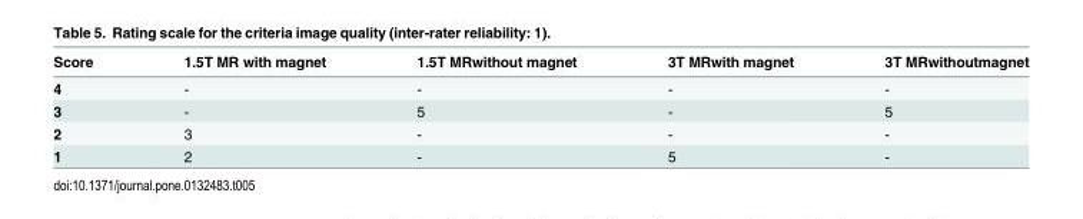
<table><thead><tr><td>Score</td><td>1.5T MR with magnet</td><td>1.5T MRwithout magnet</td><td>3T MRwith magnet</td><td>3T MRwithoutmagnet</td></tr></thead><tbody><tr><td>4</td><td>-</td><td>-</td><td>-</td><td>-</td></tr><tr><td>3</td><td>-</td><td>5</td><td>-</td><td>5</td></tr><tr><td>2</td><td>3</td><td>-</td><td>-</td><td>-</td></tr><tr><td>1</td><td>2</td><td>-</td><td>5</td><td>-</td></tr></tbody></table>